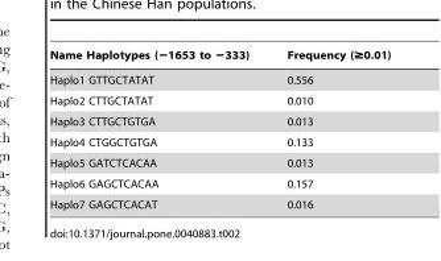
<table><thead><tr><td>Name Haplotypes (−1653 to −333)</td><td>Frequency (≥0.01)</td></tr></thead><tbody><tr><td>Haplo1 GTTGCTATAT</td><td>0.556</td></tr><tr><td>Haplo2 CTTGCTATAT</td><td>0.010</td></tr><tr><td>Haplo3 CTTGCTGTGA</td><td>0.013</td></tr><tr><td>Haplo4 CTGGCTGTGA</td><td>0.133</td></tr><tr><td>Haplo5 GATCTCACAA</td><td>0.013</td></tr><tr><td>Haplo6 GAGCTCACAA</td><td>0.157</td></tr><tr><td>Haplo7 GAGCTCACAT</td><td>0.016</td></tr></tbody></table>